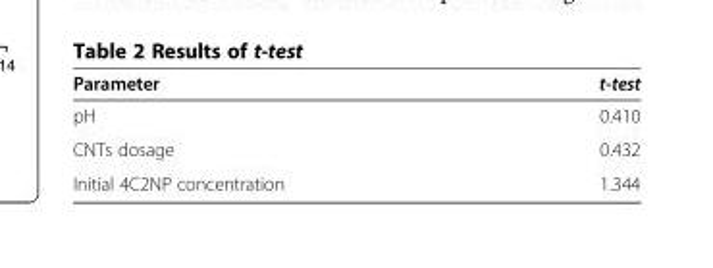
<table><thead><tr><td>Parameter</td><td>t-test</td></tr></thead><tbody><tr><td>pH</td><td>0.410</td></tr><tr><td>CNTs dosage</td><td>0.432</td></tr><tr><td>Initial 4C2NP concentration</td><td>1.344</td></tr></tbody></table>